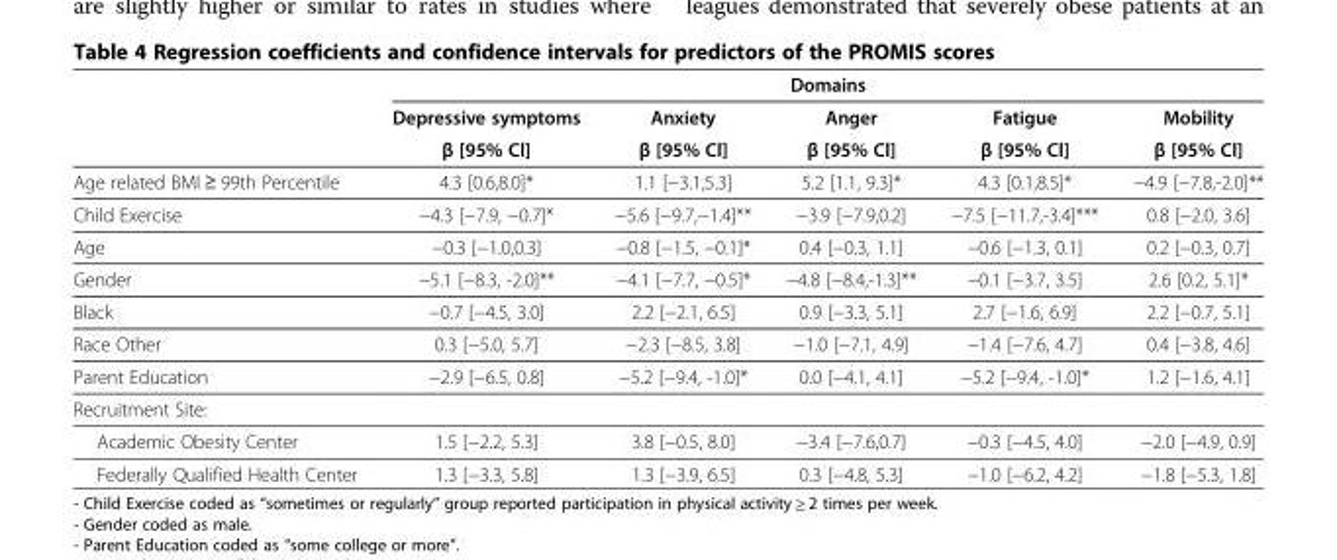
<table><thead><tr><td rowspan="3"></td><td colspan="5">Domains</td></tr><tr><td rowspan="2">Depressive symptoms β [95% Cl]</td><td rowspan="2">Anxiety β [95% Cl]</td><td rowspan="2">Anger β [95% Cl]</td><td rowspan="2">Fatigue β [95% Cl]</td><td rowspan="2">Mobility β [95% Cl]</td></tr><tr></tr></thead><tbody><tr><td>Age related BMI ≥ 99th Percentile</td><td>4.3 [0.6,8.0]*</td><td>1.1 [−3.1,5.3]</td><td>5.2 [1.1, 9.3]*</td><td>4.3 [0.1,8.5]*</td><td>−4.9 [−7.8,-2.0]**</td></tr><tr><td>Child Exercise</td><td>−4.3 [−7.9, −0.7]*</td><td>−5.6 [−9.7,−1.4]**</td><td>−3.9 [−7.9,0.2]</td><td>−7.5 [−11.7,-3.4]***</td><td>0.8 [−2.0, 3.6]</td></tr><tr><td>Age</td><td>−0.3 [−1.0,0.3]</td><td>−0.8 [−1.5, −0.1]*</td><td>0.4 [−0.3, 1.1]</td><td>−0.6 [−1.3, 0.1]</td><td>0.2 [−0.3, 0.7]</td></tr><tr><td>Gender</td><td>−5.1 [−8.3, -2.0]**</td><td>−4.1 [−7.7, −0.5]*</td><td>−4.8 [−8.4,-1.3]**</td><td>−0.1 [−3.7, 3.5]</td><td>2.6 [0.2, 5.1]*</td></tr><tr><td>Black</td><td>−0.7 [−4.5, 3.0]</td><td>2.2 [−2.1, 6.5]</td><td>0.9 [−3.3, 5.1]</td><td>2.7 [−1.6, 6.9]</td><td>2.2 [−0.7, 5.1]</td></tr><tr><td>Race Other</td><td>0.3 [−5.0, 5.7]</td><td>−2.3 [−8.5, 3.8]</td><td>−1.0 [−7.1, 4.9]</td><td>−1.4 [−7.6, 4.7]</td><td>0.4 [−3.8, 4.6]</td></tr><tr><td>Parent Education</td><td>−2.9 [−6.5, 0.8]</td><td>−5.2 [−9.4, -1.0]*</td><td>0.0 [−4.1, 4.1]</td><td>−5.2 [−9.4, -1.0]*</td><td>1.2 [−1.6, 4.1]</td></tr><tr><td colspan="6">Recruitment Site:</td></tr><tr><td>Academic Obesity Center</td><td>1.5 [−2.2, 5.3]</td><td>3.8 [−0.5, 8.0]</td><td>−3.4 [−7.6,0.7]</td><td>−0.3 [−4.5, 4.0]</td><td>−2.0 [−4.9, 0.9]</td></tr><tr><td>Federally Qualified Health Center</td><td>1.3 [−3.3, 5.8]</td><td>1.3 [−3.9, 6.5]</td><td>0.3 [−4.8, 5.3]</td><td>−1.0 [−6.2, 4.2]</td><td>−1.8 [−5.3, 1.8]</td></tr></tbody></table>